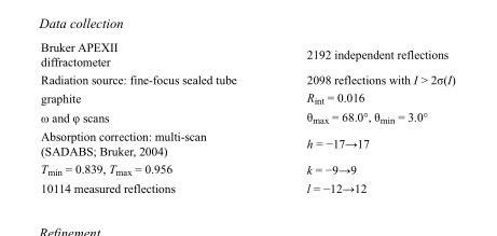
<table><tbody><tr><td>Bruker APEXII diffractometer</td><td>2192 independent reflections</td></tr><tr><td>Radiation source: fine-focus sealed tube</td><td>2098 reflections with I &gt; 2σ(I)</td></tr><tr><td>graphite</td><td>R<sub>int</sub> = 0.016</td></tr><tr><td>ω and φ scans</td><td>θ<sub>max</sub> = 68.0°, θ<sub>min</sub> = 3.0°</td></tr><tr><td>Absorption correction: multi-scan (SADABS; Bruker, 2004)</td><td>h = −17→17</td></tr><tr><td>T<sub>min</sub> = 0.839, T<sub>max</sub> = 0.956</td><td>k = −9→9</td></tr><tr><td>10114 measured reflections</td><td>l = −12→12</td></tr></tbody></table>